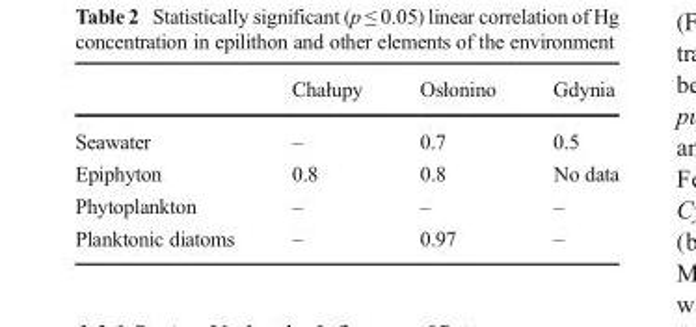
<table><thead><tr><td></td><td>Chałupy</td><td>Osłonino</td><td>Gdynia</td></tr></thead><tbody><tr><td>Seawater</td><td>–</td><td>0.7</td><td>0.5</td></tr><tr><td>Epiphyton</td><td>0.8</td><td>0.8</td><td>No data</td></tr><tr><td>Phytoplankton</td><td>–</td><td>–</td><td>–</td></tr><tr><td>Planktonic diatoms</td><td>–</td><td>0.97</td><td>–</td></tr></tbody></table>